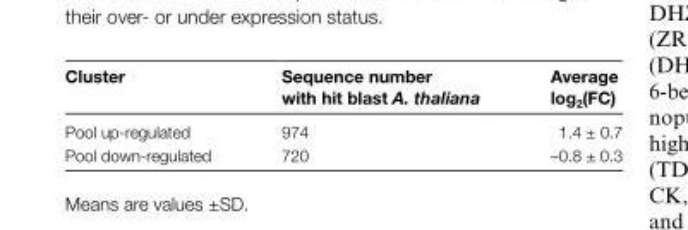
<table><thead><tr><td>Cluster</td><td>Sequence number with hit blast A. thaliana</td><td>Average log<sub>2</sub>(FC)</td></tr></thead><tbody><tr><td>Pool up-regulated</td><td>974</td><td>1.4 ± 0.7</td></tr><tr><td>Pool down-regulated</td><td>720</td><td>–0.8 ± 0.3</td></tr></tbody></table>